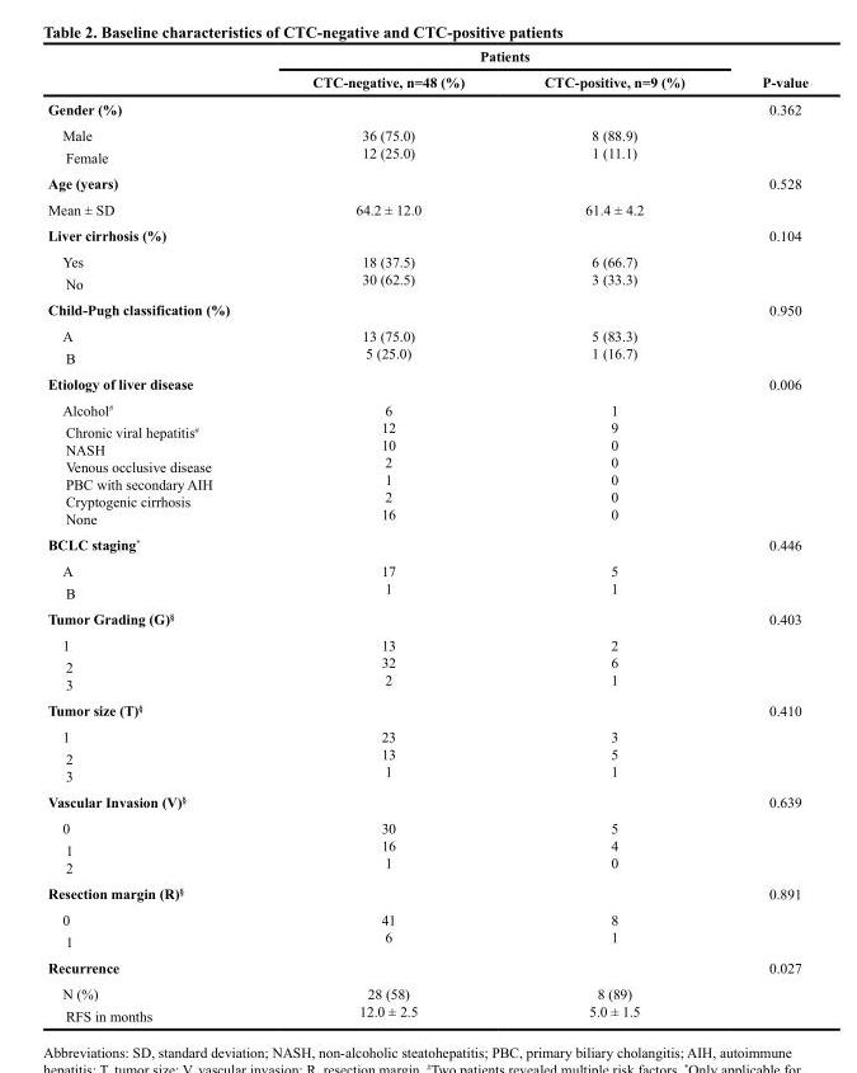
<table><thead><tr><td rowspan="2"></td><td colspan="2">Patients</td><td rowspan="2">P-value</td></tr><tr><td>CTC-negative, n=48 (%)</td><td>CTC-positive, n=9 (%)</td></tr></thead><tbody><tr><td>Gender (%) Male Female</td><td>36 (75.0) 12 (25.0)</td><td>8 (88.9) 1 (11.1)</td><td>0.362</td></tr><tr><td>Age (years) Mean ± SD</td><td>64.2 ± 12.0</td><td>61.4 ± 4.2</td><td>0.528</td></tr><tr><td>Liver cirrhosis (%) Yes No</td><td>18 (37.5) 30 (62.5)</td><td>6 (66.7) 3 (33.3)</td><td>0.104</td></tr><tr><td>Child-Pugh classification (%) A B</td><td>13 (75.0) 5 (25.0)</td><td>5 (83.3) 1 (16.7)</td><td>0.950</td></tr><tr><td>Etiology of liver disease Alcohol<sup>#</sup> Chronic viral hepatitis<sup>#</sup> NASH Venous occlusive disease PBC with secondary AIH Cryptogenic cirrhosis None</td><td>6 12 10 2 1 2 16</td><td>1 9 0 0 0 0 0</td><td>0.006</td></tr><tr><td>BCLC staging* A B</td><td>17 1</td><td>5 1</td><td>0.446</td></tr><tr><td>Tumor Grading (G)<sup>§</sup> 1 2 3</td><td>13 32 2</td><td>2 6 1</td><td>0.403</td></tr><tr><td>Tumor size (T)<sup>§</sup> 1 2 3</td><td>23 13 1</td><td>3 5 1</td><td>0.410</td></tr><tr><td>Vascular Invasion (V)<sup>§</sup> 0 1 2</td><td>30 16 1</td><td>5 4 0</td><td>0.639</td></tr><tr><td>Resection margin (R)<sup>§</sup> 0 1</td><td>41 6</td><td>8 1</td><td>0.891</td></tr><tr><td>Recurrence N (%) RFS in months</td><td>28 (58) 12.0 ± 2.5</td><td>8 (89) 5.0 ± 1.5</td><td>0.027</td></tr></tbody></table>